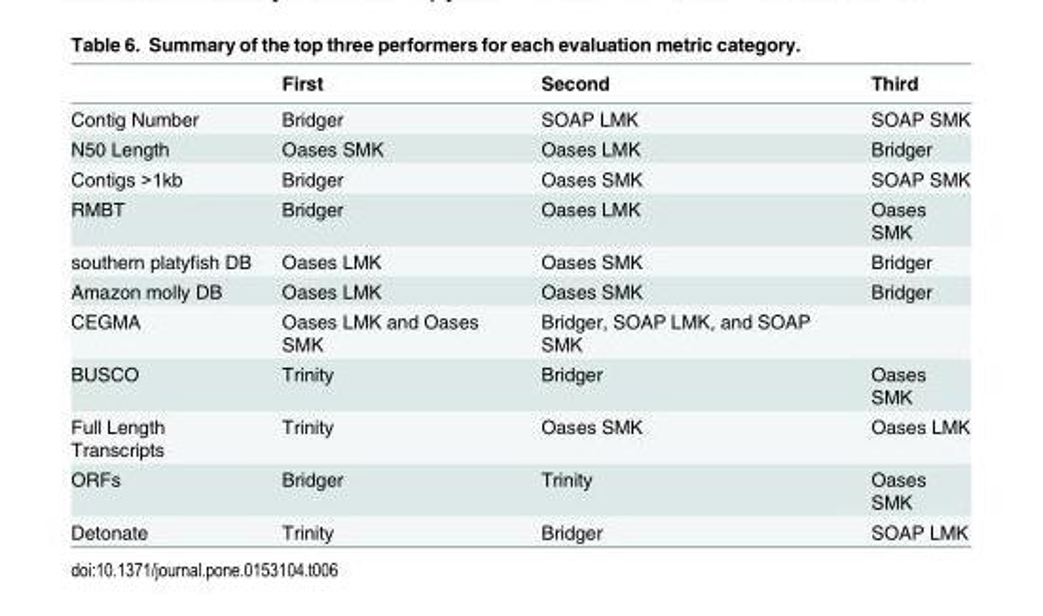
<table><thead><tr><td></td><td>First</td><td>Second</td><td>Third</td></tr></thead><tbody><tr><td>Contig Number</td><td>Bridger</td><td>SOAP LMK</td><td>SOAP SMK</td></tr><tr><td>N50 Length</td><td>Oases SMK</td><td>Oases LMK</td><td>Bridger</td></tr><tr><td>Contigs &gt;1kb</td><td>Bridger</td><td>Oases SMK</td><td>SOAP SMK</td></tr><tr><td>RMBT</td><td>Bridger</td><td>Oases LMK</td><td>Oases SMK</td></tr><tr><td>southern platyfish DB</td><td>Oases LMK</td><td>Oases SMK</td><td>Bridger</td></tr><tr><td>Amazon molly DB</td><td>Oases LMK</td><td>Oases SMK</td><td>Bridger</td></tr><tr><td>CEGMA</td><td>Oases LMK and Oases SMK</td><td>Bridger, SOAP LMK, and SOAP SMK</td><td></td></tr><tr><td>BUSCO</td><td>Trinity</td><td>Bridger</td><td>Oases SMK</td></tr><tr><td>Full Length Transcripts</td><td>Trinity</td><td>Oases SMK</td><td>Oases LMK</td></tr><tr><td>ORFs</td><td>Bridger</td><td>Trinity</td><td>Oases SMK</td></tr><tr><td>Detonate</td><td>Trinity</td><td>Bridger</td><td>SOAP LMK</td></tr></tbody></table>